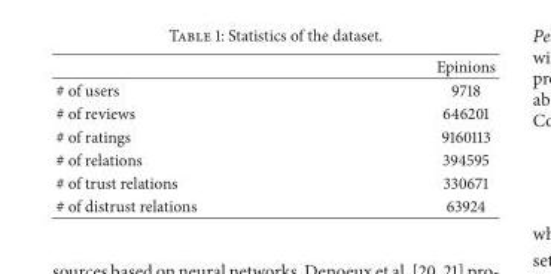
<table><thead><tr><td></td><td>Epinions</td></tr></thead><tbody><tr><td># of users</td><td>9718</td></tr><tr><td># of reviews</td><td>646201</td></tr><tr><td># of ratings</td><td>9160113</td></tr><tr><td># of relations</td><td>394595</td></tr><tr><td># of trust relations</td><td>330671</td></tr><tr><td># of distrust relations</td><td>63924</td></tr></tbody></table>